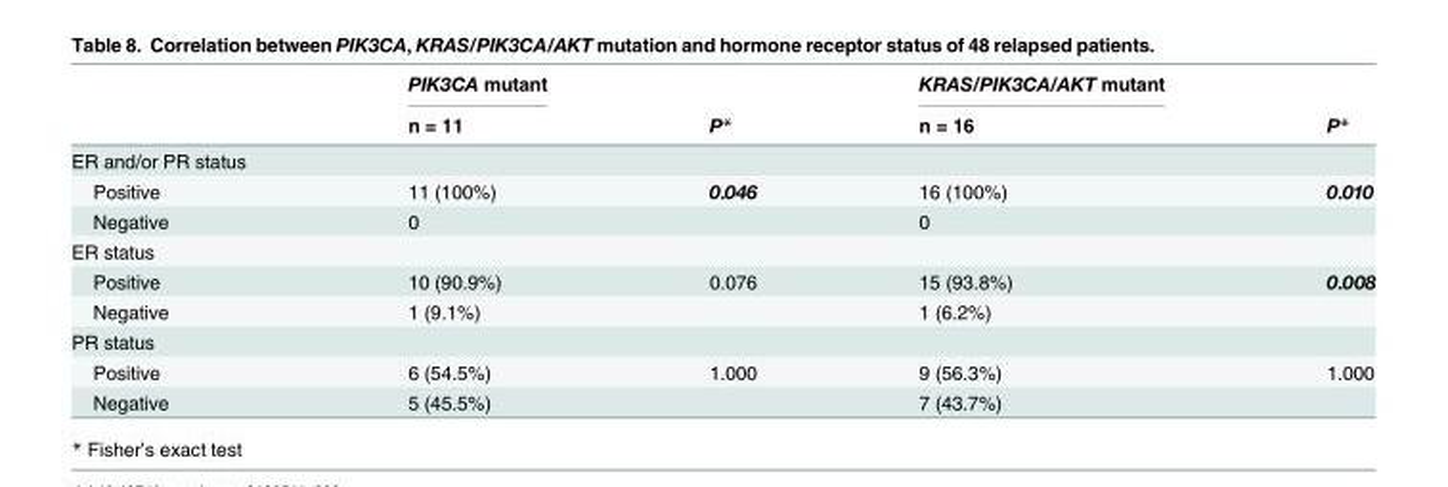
<table><thead><tr><td rowspan="2"></td><td rowspan="2">PIK3CA mutant n = 11</td><td rowspan="2">P*</td><td rowspan="2">KRAS/PIK3CA/AKT mutant n = 16</td><td rowspan="2">P*</td></tr><tr></tr></thead><tbody><tr><td colspan="5">ER and/or PR status</td></tr><tr><td>Positive</td><td>11 (100%)</td><td>0.046</td><td>16 (100%)</td><td>0.010</td></tr><tr><td>Negative</td><td>0</td><td></td><td>0</td><td></td></tr><tr><td colspan="5">ER status</td></tr><tr><td>Positive</td><td>10 (90.9%)</td><td>0.076</td><td>15 (93.8%)</td><td>0.008</td></tr><tr><td>Negative</td><td>1 (9.1%)</td><td></td><td>1 (6.2%)</td><td></td></tr><tr><td colspan="5">PR status</td></tr><tr><td>Positive</td><td>6 (54.5%)</td><td>1.000</td><td>9 (56.3%)</td><td>1.000</td></tr><tr><td>Negative</td><td>5 (45.5%)</td><td></td><td>7 (43.7%)</td><td></td></tr></tbody></table>